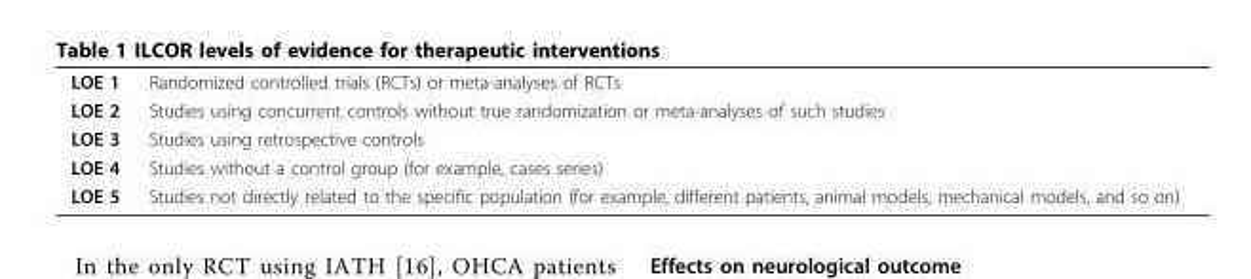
<table><tbody><tr><td>LOE 1</td><td>Randomized controlled trials (RCTs) or meta-analyses of RCTs</td></tr><tr><td>LOE 2</td><td>Studies using concurrent controls without true randomization or meta-analyses of such studies</td></tr><tr><td>LOE 3</td><td>Studies using retrospective controls</td></tr><tr><td>LOE 4</td><td>Studies without a control group (for example, cases series)</td></tr><tr><td>LOE 5</td><td>Studies not directly related to the specific population (for example, different patients, animal models, mechanical models, and so on)</td></tr></tbody></table>